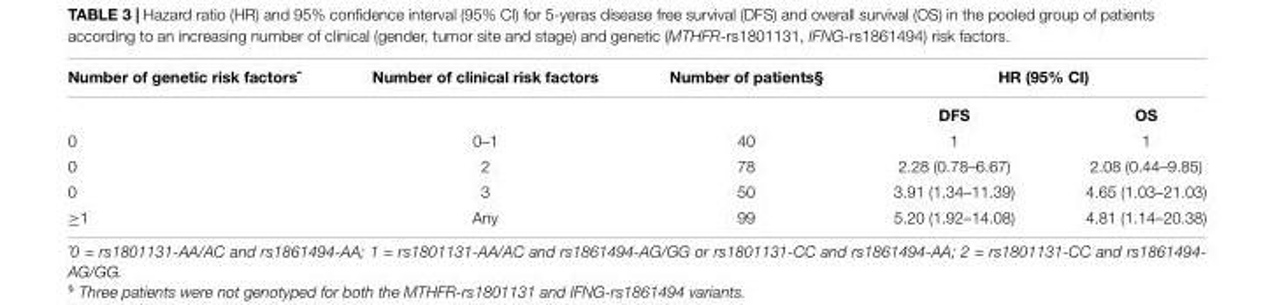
<table><thead><tr><td rowspan="2">Number of genetic risk factorsˆ</td><td rowspan="2">Number of clinical risk factors</td><td rowspan="2">Number of patients§</td><td colspan="2">HR (95% CI)</td></tr><tr><td>DFS</td><td>OS</td></tr></thead><tbody><tr><td>0</td><td>0–1</td><td>40</td><td>1</td><td>1</td></tr><tr><td>0</td><td>2</td><td>78</td><td>2.28 (0.78–6.67)</td><td>2.08 (0.44–9.85)</td></tr><tr><td>0</td><td>3</td><td>50</td><td>3.91 (1.34–11.39)</td><td>4.65 (1.03–21.03)</td></tr><tr><td>≥1</td><td>Any</td><td>99</td><td>5.20 (1.92–14.08)</td><td>4.81 (1.14–20.38)</td></tr></tbody></table>